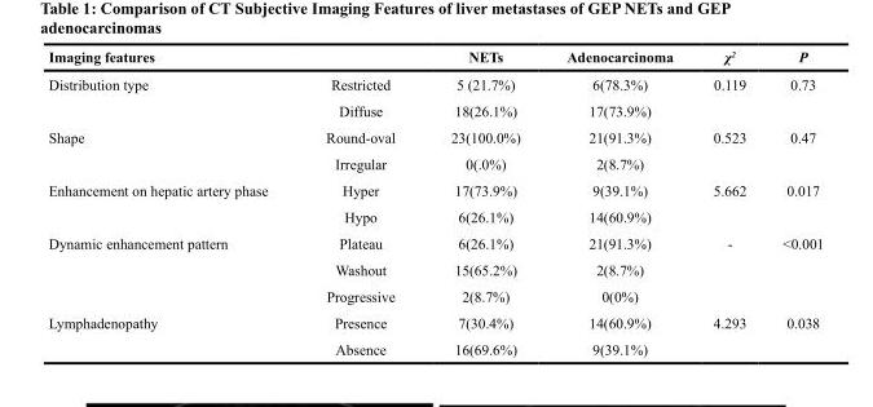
<table><thead><tr><td>Imaging features</td><td></td><td>NETs</td><td>Adenocarcinoma</td><td>χ<sup>2</sup></td><td>P</td></tr></thead><tbody><tr><td rowspan="2">Distribution type</td><td>Restricted</td><td>5 (21.7%)</td><td>6(78.3%)</td><td>0.119</td><td>0.73</td></tr><tr><td>Diffuse</td><td>18(26.1%)</td><td>17(73.9%)</td><td></td><td></td></tr><tr><td rowspan="2">Shape</td><td>Round-oval</td><td>23(100.0%)</td><td>21(91.3%)</td><td>0.523</td><td>0.47</td></tr><tr><td>Irregular</td><td>0(.0%)</td><td>2(8.7%)</td><td></td><td></td></tr><tr><td rowspan="2">Enhancement on hepatic artery phase</td><td>Hyper</td><td>17(73.9%)</td><td>9(39.1%)</td><td>5.662</td><td>0.017</td></tr><tr><td>Hypo</td><td>6(26.1%)</td><td>14(60.9%)</td><td></td><td></td></tr><tr><td rowspan="3">Dynamic enhancement pattern</td><td>Plateau</td><td>6(26.1%)</td><td>21(91.3%)</td><td>-</td><td>&lt;0.001</td></tr><tr><td>Washout</td><td>15(65.2%)</td><td>2(8.7%)</td><td></td><td></td></tr><tr><td>Progressive</td><td>2(8.7%)</td><td>0(0%)</td><td></td><td></td></tr><tr><td rowspan="2">Lymphadenopathy</td><td>Presence</td><td>7(30.4%)</td><td>14(60.9%)</td><td>4.293</td><td>0.038</td></tr><tr><td>Absence</td><td>16(69.6%)</td><td>9(39.1%)</td><td></td><td></td></tr></tbody></table>